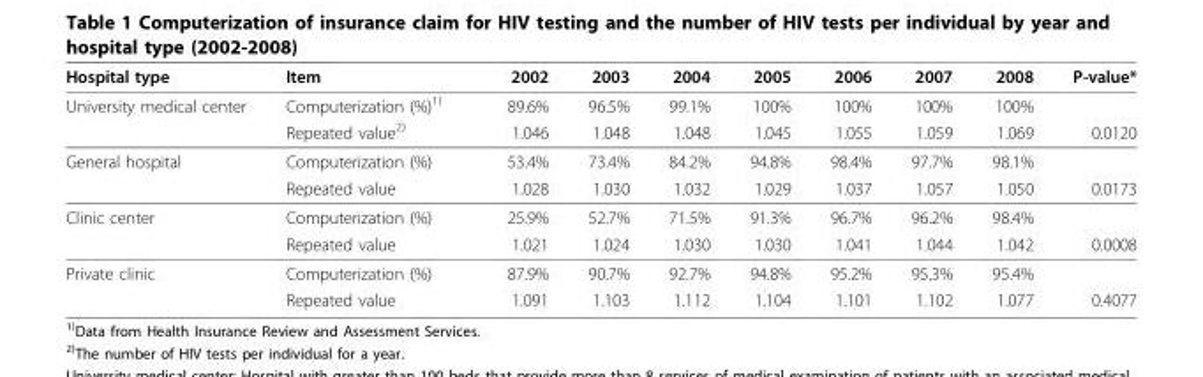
<table><thead><tr><td>Hospital type</td><td>Item</td><td>2002</td><td>2003</td><td>2004</td><td>2005</td><td>2006</td><td>2007</td><td>2008</td><td>P-value*</td></tr></thead><tbody><tr><td rowspan="2">University medical center</td><td>Computerization (%)<sup>1)</sup></td><td>89.6%</td><td>96.5%</td><td>99.1%</td><td>100%</td><td>100%</td><td>100%</td><td>100%</td><td></td></tr><tr><td>Repeated value<sup>2)</sup></td><td>1.046</td><td>1.048</td><td>1.048</td><td>1.045</td><td>1.055</td><td>1.059</td><td>1.069</td><td>0.0120</td></tr><tr><td rowspan="2">General hospital</td><td>Computerization (%)</td><td>53.4%</td><td>73.4%</td><td>84.2%</td><td>94.8%</td><td>98.4%</td><td>97.7%</td><td>98.1%</td><td></td></tr><tr><td>Repeated value</td><td>1.028</td><td>1.030</td><td>1.032</td><td>1.029</td><td>1.037</td><td>1.057</td><td>1.050</td><td>0.0173</td></tr><tr><td rowspan="2">Clinic center</td><td>Computerization (%)</td><td>25.9%</td><td>52.7%</td><td>71.5%</td><td>91.3%</td><td>96.7%</td><td>96.2%</td><td>98.4%</td><td></td></tr><tr><td>Repeated value</td><td>1.021</td><td>1.024</td><td>1.030</td><td>1.030</td><td>1.041</td><td>1.044</td><td>1.042</td><td>0.0008</td></tr><tr><td rowspan="2">Private clinic</td><td>Computerization (%)</td><td>87.9%</td><td>90.7%</td><td>92.7%</td><td>94.8%</td><td>95.2%</td><td>95.3%</td><td>95.4%</td><td></td></tr><tr><td>Repeated value</td><td>1.091</td><td>1.103</td><td>1.112</td><td>1.104</td><td>1.101</td><td>1.102</td><td>1.077</td><td>0.4077</td></tr></tbody></table>